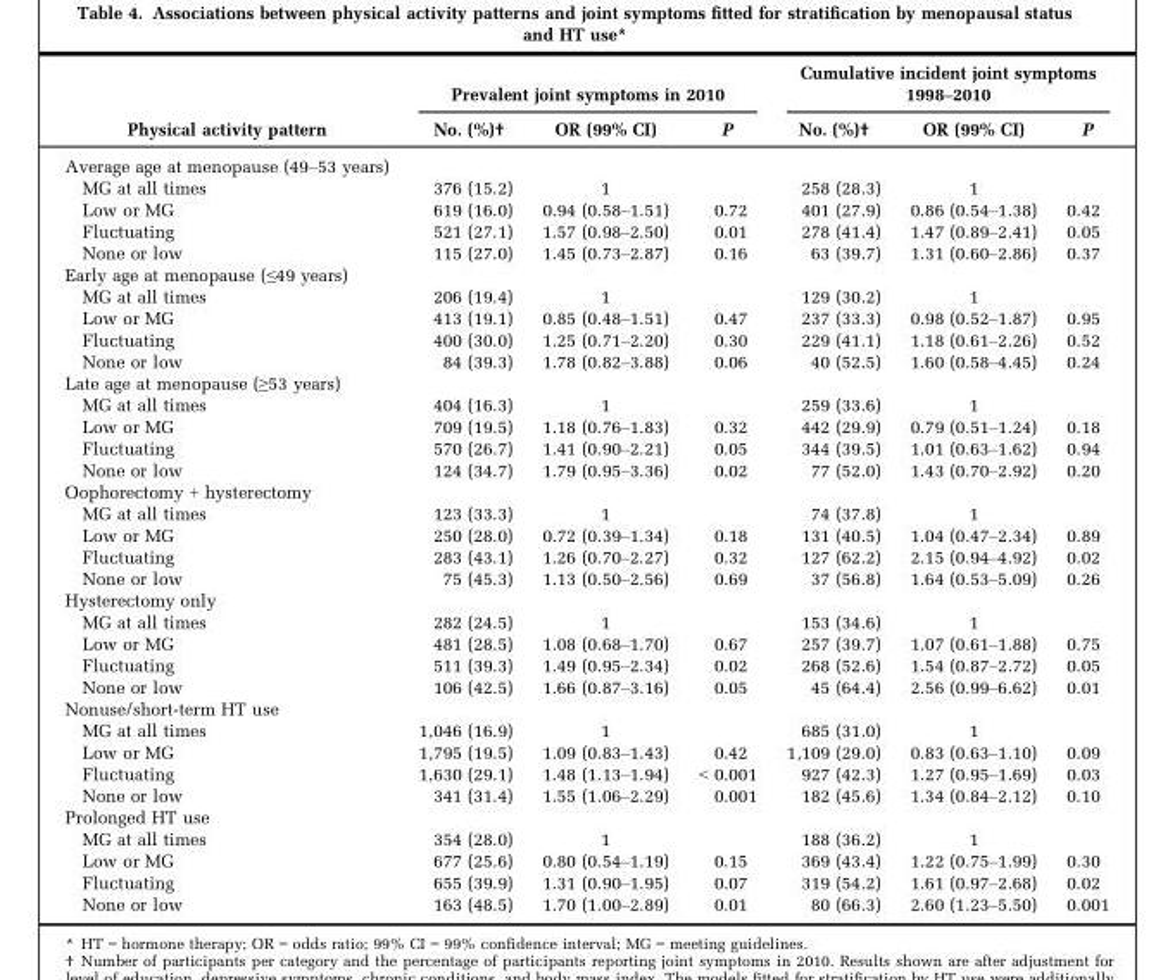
<table><thead><tr><td rowspan="2">Physical activity pattern</td><td colspan="3">Prevalent joint symptoms in 2010</td><td colspan="3">Cumulative incident joint symptoms 1998–2010</td></tr><tr><td>No. (%)†</td><td>OR (99% CI)</td><td>P</td><td>No. (%)†</td><td>OR (99% CI)</td><td>P</td></tr></thead><tbody><tr><td colspan="7">Average age at menopause (49–53 years)</td></tr><tr><td>MG at all times</td><td>376 (15.2)</td><td>1</td><td></td><td>258 (28.3)</td><td>1</td><td></td></tr><tr><td>Low or MG</td><td>619 (16.0)</td><td>0.94 (0.58–1.51)</td><td>0.72</td><td>401 (27.9)</td><td>0.86 (0.54–1.38)</td><td>0.42</td></tr><tr><td>Fluctuating</td><td>521 (27.1)</td><td>1.57 (0.98–2.50)</td><td>0.01</td><td>278 (41.4)</td><td>1.47 (0.89–2.41)</td><td>0.05</td></tr><tr><td>None or low</td><td>115 (27.0)</td><td>1.45 (0.73–2.87)</td><td>0.16</td><td>63 (39.7)</td><td>1.31 (0.60–2.86)</td><td>0.37</td></tr><tr><td colspan="7">Early age at menopause (≤49 years)</td></tr><tr><td>MG at all times</td><td>206 (19.4)</td><td>1</td><td></td><td>129 (30.2)</td><td>1</td><td></td></tr><tr><td>Low or MG</td><td>413 (19.1)</td><td>0.85 (0.48–1.51)</td><td>0.47</td><td>237 (33.3)</td><td>0.98 (0.52–1.87)</td><td>0.95</td></tr><tr><td>Fluctuating</td><td>400 (30.0)</td><td>1.25 (0.71–2.20)</td><td>0.30</td><td>229 (41.1)</td><td>1.18 (0.61–2.26)</td><td>0.52</td></tr><tr><td>None or low</td><td>84 (39.3)</td><td>1.78 (0.82–3.88)</td><td>0.06</td><td>40 (52.5)</td><td>1.60 (0.58–4.45)</td><td>0.24</td></tr><tr><td colspan="7">Late age at menopause (≥53 years)</td></tr><tr><td>MG at all times</td><td>404 (16.3)</td><td>1</td><td></td><td>259 (33.6)</td><td>1</td><td></td></tr><tr><td>Low or MG</td><td>709 (19.5)</td><td>1.18 (0.76–1.83)</td><td>0.32</td><td>442 (29.9)</td><td>0.79 (0.51–1.24)</td><td>0.18</td></tr><tr><td>Fluctuating</td><td>570 (26.7)</td><td>1.41 (0.90–2.21)</td><td>0.05</td><td>344 (39.5)</td><td>1.01 (0.63–1.62)</td><td>0.94</td></tr><tr><td>None or low</td><td>124 (34.7)</td><td>1.79 (0.95–3.36)</td><td>0.02</td><td>77 (52.0)</td><td>1.43 (0.70–2.92)</td><td>0.20</td></tr><tr><td colspan="7">Oophorectomy + hysterectomy</td></tr><tr><td>MG at all times</td><td>123 (33.3)</td><td>1</td><td></td><td>74 (37.8)</td><td>1</td><td></td></tr><tr><td>Low or MG</td><td>250 (28.0)</td><td>0.72 (0.39–1.34)</td><td>0.18</td><td>131 (40.5)</td><td>1.04 (0.47–2.34)</td><td>0.89</td></tr><tr><td>Fluctuating</td><td>283 (43.1)</td><td>1.26 (0.70–2.27)</td><td>0.32</td><td>127 (62.2)</td><td>2.15 (0.94–4.92)</td><td>0.02</td></tr><tr><td>None or low</td><td>75 (45.3)</td><td>1.13 (0.50–2.56)</td><td>0.69</td><td>37 (56.8)</td><td>1.64 (0.53–5.09)</td><td>0.26</td></tr><tr><td colspan="7">Hysterectomy only</td></tr><tr><td>MG at all times</td><td>282 (24.5)</td><td>1</td><td></td><td>153 (34.6)</td><td>1</td><td></td></tr><tr><td>Low or MG</td><td>481 (28.5)</td><td>1.08 (0.68–1.70)</td><td>0.67</td><td>257 (39.7)</td><td>1.07 (0.61–1.88)</td><td>0.75</td></tr><tr><td>Fluctuating</td><td>511 (39.3)</td><td>1.49 (0.95–2.34)</td><td>0.02</td><td>268 (52.6)</td><td>1.54 (0.87–2.72)</td><td>0.05</td></tr><tr><td>None or low</td><td>106 (42.5)</td><td>1.66 (0.87–3.16)</td><td>0.05</td><td>45 (64.4)</td><td>2.56 (0.99–6.62)</td><td>0.01</td></tr><tr><td colspan="7">Nonuse/short-term HT use</td></tr><tr><td>MG at all times</td><td>1,046 (16.9)</td><td>1</td><td></td><td>685 (31.0)</td><td>1</td><td></td></tr><tr><td>Low or MG</td><td>1,795 (19.5)</td><td>1.09 (0.83–1.43)</td><td>0.42</td><td>1,109 (29.0)</td><td>0.83 (0.63–1.10)</td><td>0.09</td></tr><tr><td>Fluctuating</td><td>1,630 (29.1)</td><td>1.48 (1.13–1.94)</td><td>&lt; 0.001</td><td>927 (42.3)</td><td>1.27 (0.95–1.69)</td><td>0.03</td></tr><tr><td>None or low</td><td>341 (31.4)</td><td>1.55 (1.06–2.29)</td><td>0.001</td><td>182 (45.6)</td><td>1.34 (0.84–2.12)</td><td>0.10</td></tr><tr><td colspan="7">Prolonged HT use</td></tr><tr><td>MG at all times</td><td>354 (28.0)</td><td>1</td><td></td><td>188 (36.2)</td><td>1</td><td></td></tr><tr><td>Low or MG</td><td>677 (25.6)</td><td>0.80 (0.54–1.19)</td><td>0.15</td><td>369 (43.4)</td><td>1.22 (0.75–1.99)</td><td>0.30</td></tr><tr><td>Fluctuating</td><td>655 (39.9)</td><td>1.31 (0.90–1.95)</td><td>0.07</td><td>319 (54.2)</td><td>1.61 (0.97–2.68)</td><td>0.02</td></tr><tr><td>None or low</td><td>163 (48.5)</td><td>1.70 (1.00–2.89)</td><td>0.01</td><td>80 (66.3)</td><td>2.60 (1.23–5.50)</td><td>0.001</td></tr></tbody></table>